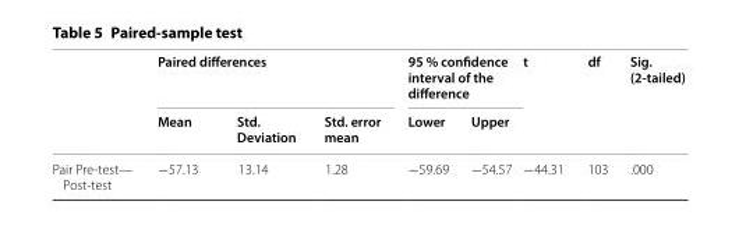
<table><thead><tr><td rowspan="2"></td><td colspan="3">Paired differences</td><td colspan="2">95 % confidence interval of the difference</td><td rowspan="2">t</td><td rowspan="2">df</td><td rowspan="2">Sig. (2-tailed)</td></tr><tr><td>Mean</td><td>Std. Deviation</td><td>Std. error mean</td><td>Lower</td><td>Upper</td></tr></thead><tbody><tr><td>Pair Pre‑test— Post‑test</td><td>−57.13</td><td>13.14</td><td>1.28</td><td>−59.69</td><td>−54.57</td><td>−44.31</td><td>103</td><td>.000</td></tr></tbody></table>